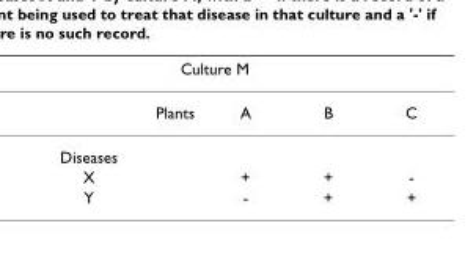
<table><thead><tr><td colspan="4">Culture M</td></tr><tr><td>Plants</td><td>A</td><td>B</td><td>C</td></tr></thead><tbody><tr><td colspan="4">Diseases</td></tr><tr><td>X</td><td>+</td><td>+</td><td>-</td></tr><tr><td>Y</td><td>-</td><td>+</td><td>+</td></tr></tbody></table>